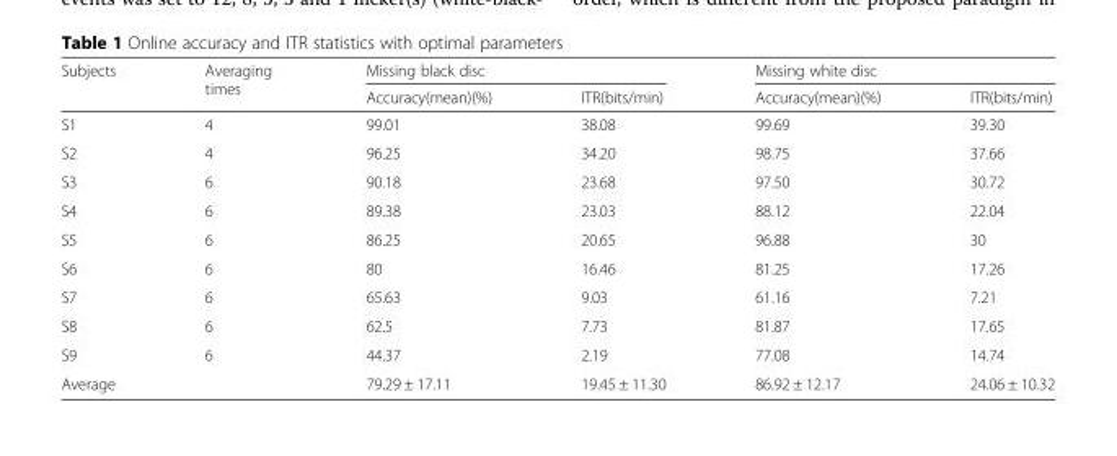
<table><thead><tr><td rowspan="2">Subjects</td><td rowspan="2">Averaging times</td><td colspan="2">Missing black disc</td><td colspan="2">Missing white disc</td></tr><tr><td>Accuracy(mean)(%)</td><td>ITR(bits/min)</td><td>Accuracy(mean)(%)</td><td>ITR(bits/min)</td></tr></thead><tbody><tr><td>S1</td><td>4</td><td>99.01</td><td>38.08</td><td>99.69</td><td>39.30</td></tr><tr><td>S2</td><td>4</td><td>96.25</td><td>34.20</td><td>98.75</td><td>37.66</td></tr><tr><td>S3</td><td>6</td><td>90.18</td><td>23.68</td><td>97.50</td><td>30.72</td></tr><tr><td>S4</td><td>6</td><td>89.38</td><td>23.03</td><td>88.12</td><td>22.04</td></tr><tr><td>S5</td><td>6</td><td>86.25</td><td>20.65</td><td>96.88</td><td>30</td></tr><tr><td>S6</td><td>6</td><td>80</td><td>16.46</td><td>81.25</td><td>17.26</td></tr><tr><td>S7</td><td>6</td><td>65.63</td><td>9.03</td><td>61.16</td><td>7.21</td></tr><tr><td>S8</td><td>6</td><td>62.5</td><td>7.73</td><td>81.87</td><td>17.65</td></tr><tr><td>S9</td><td>6</td><td>44.37</td><td>2.19</td><td>77.08</td><td>14.74</td></tr><tr><td>Average</td><td></td><td>79.29 ± 17.11</td><td>19.45 ± 11.30</td><td>86.92 ± 12.17</td><td>24.06 ± 10.32</td></tr></tbody></table>